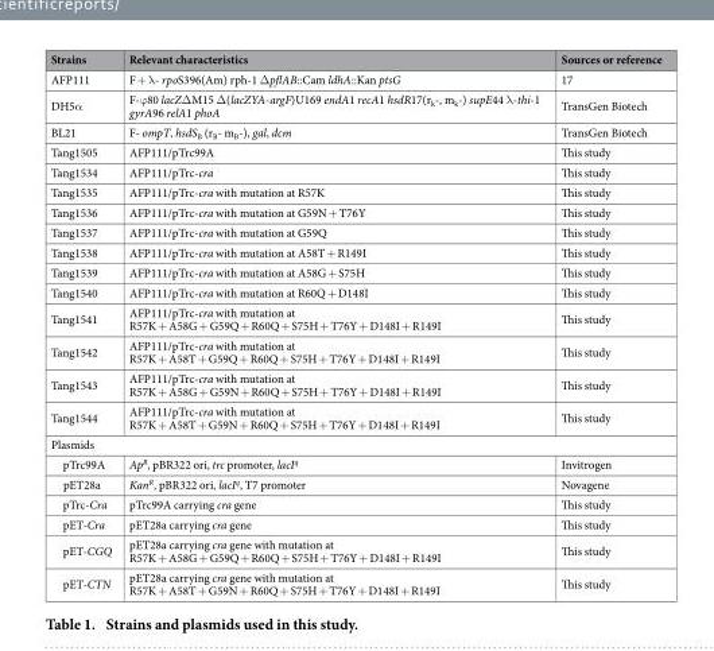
<table><thead><tr><td>Strains</td><td>Relevant characteristics</td><td>Sources or reference</td></tr></thead><tbody><tr><td>AFP111</td><td>F + λ - rpoS396(Am) rph-1 Δ pflAB::Cam ldhA::Kan ptsG</td><td>17</td></tr><tr><td>DH5α</td><td>F-ϕ 80 lacZΔ M15 Δ (lacZYA-argF)U169 endA1 recA1 hsdR17(r<sub>k</sub>-, m<sub>k</sub>-) supE44 λ -thi-1 gyrA96 relA1 phoA</td><td>TransGen Biotech</td></tr><tr><td>BL21</td><td>F- ompT, hsdS<sub>B</sub> (r<sub>B</sub>- m<sub>B</sub>-), gal, dcm</td><td>TransGen Biotech</td></tr><tr><td>Tang1505</td><td>AFP111/pTrc99A</td><td>This study</td></tr><tr><td>Tang1534</td><td>AFP111/pTrc-cra</td><td>This study</td></tr><tr><td>Tang1535</td><td>AFP111/pTrc-cra with mutation at R57K</td><td>This study</td></tr><tr><td>Tang1536</td><td>AFP111/pTrc-cra with mutation at G59N + T76Y</td><td>This study</td></tr><tr><td>Tang1537</td><td>AFP111/pTrc-cra with mutation at G59Q</td><td>This study</td></tr><tr><td>Tang1538</td><td>AFP111/pTrc-cra with mutation at A58T + R149I</td><td>This study</td></tr><tr><td>Tang1539</td><td>AFP111/pTrc-cra with mutation at A58G + S75H</td><td>This study</td></tr><tr><td>Tang1540</td><td>AFP111/pTrc-cra with mutation at R60Q + D148I</td><td>This study</td></tr><tr><td>Tang1541</td><td>AFP111/pTrc-cra with mutation at R57K + A58G + G59Q + R60Q + S75H + T76Y + D148I + R149I</td><td>This study</td></tr><tr><td>Tang1542</td><td>AFP111/pTrc-cra with mutation at R57K + A58T + G59Q + R60Q + S75H + T76Y + D148I + R149I</td><td>This study</td></tr><tr><td>Tang1543</td><td>AFP111/pTrc-cra with mutation at R57K + A58G + G59N + R60Q + S75H + T76Y + D148I + R149I</td><td>This study</td></tr><tr><td>Tang1544</td><td>AFP111/pTrc-cra with mutation at R57K + A58T + G59N + R60Q + S75H + T76Y + D148I + R149I</td><td>This study</td></tr><tr><td colspan="3">Plasmids</td></tr><tr><td>pTrc99A</td><td>Ap<sup>R</sup>, pBR322 ori, trc promoter, lacI<sup>q</sup></td><td>Invitrogen</td></tr><tr><td>pET28a</td><td>Kan<sup>R</sup>, pBR322 ori, lacI<sup>q</sup>, T7 promoter</td><td>Novagene</td></tr><tr><td>pTrc-Cra</td><td>pTrc99A carrying cra gene</td><td>This study</td></tr><tr><td>pET-Cra</td><td>pET28a carrying cra gene</td><td>This study</td></tr><tr><td>pET-CGQ</td><td>pET28a carrying cra gene with mutation at R57K + A58G + G59Q + R60Q + S75H + T76Y + D148I + R149I</td><td>This study</td></tr><tr><td>pET-CTN</td><td>pET28a carrying cra gene with mutation at R57K + A58T + G59N + R60Q + S75H + T76Y + D148I + R149I</td><td>This study</td></tr></tbody></table>